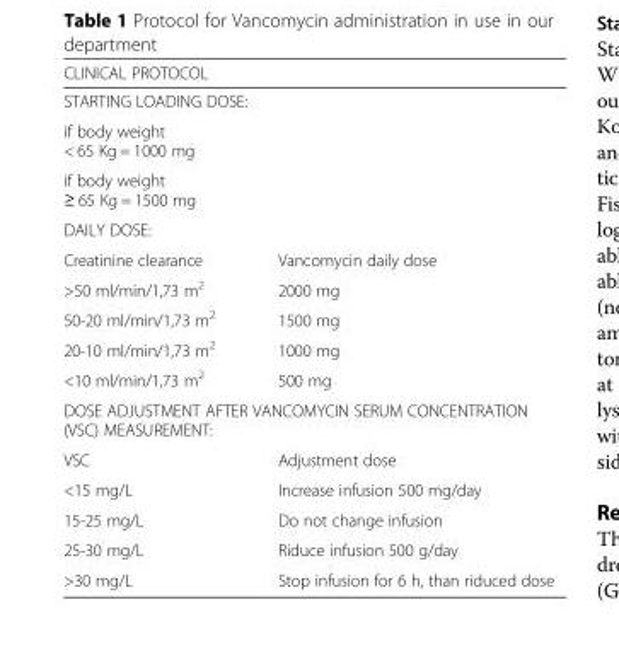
<table><thead><tr><td rowspan="2" colspan="2">CLINICAL PROTOCOL STARTING LOADING DOSE:</td></tr><tr></tr><tr><td>if body weight &lt; 65 Kg = 1000 mg</td><td></td></tr></thead><tbody><tr><td colspan="2">if body weight ≥ 65 Kg = 1500 mg</td></tr><tr><td colspan="2">DAILY DOSE:</td></tr><tr><td>Creatinine clearance</td><td>Vancomycin daily dose</td></tr><tr><td>&gt;50 ml/min/1,73 m<sup>2</sup></td><td>2000 mg</td></tr><tr><td>50-20 ml/min/1,73 m<sup>2</sup></td><td>1500 mg</td></tr><tr><td>20-10 ml/min/1,73 m<sup>2</sup></td><td>1000 mg</td></tr><tr><td>&lt;10 ml/min/1,73 m<sup>2</sup></td><td>500 mg</td></tr><tr><td colspan="2">DOSE ADJUSTMENT AFTER VANCOMYCIN SERUM CONCENTRATION (VSC) MEASUREMENT:</td></tr><tr><td>VSC</td><td>Adjustment dose</td></tr><tr><td>&lt;15 mg/L</td><td>Increase infusion 500 mg/day</td></tr><tr><td>15-25 mg/L</td><td>Do not change infusion</td></tr><tr><td>25-30 mg/L</td><td>Riduce infusion 500 g/day</td></tr><tr><td>&gt;30 mg/L</td><td>Stop infusion for 6 h, than riduced dose</td></tr></tbody></table>